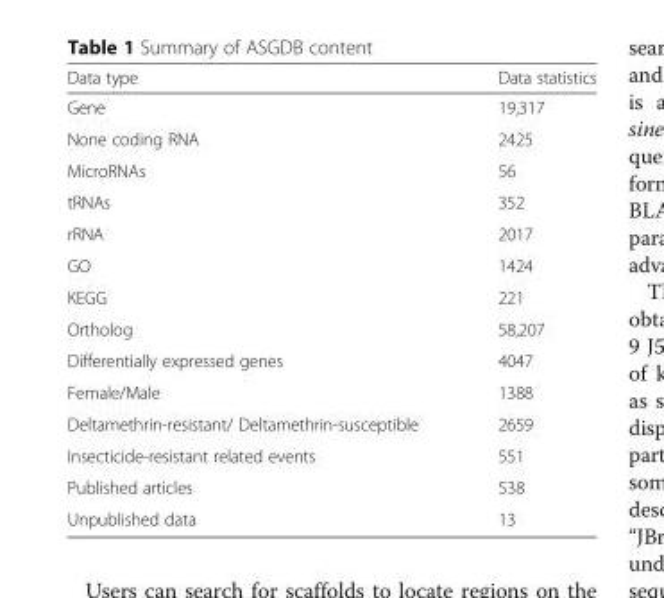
<table><thead><tr><td>Data type</td><td>Data statistics</td></tr></thead><tbody><tr><td>Gene</td><td>19,317</td></tr><tr><td>None coding RNA</td><td>2425</td></tr><tr><td>MicroRNAs</td><td>56</td></tr><tr><td>tRNAs</td><td>352</td></tr><tr><td>rRNA</td><td>2017</td></tr><tr><td>GO</td><td>1424</td></tr><tr><td>KEGG</td><td>221</td></tr><tr><td>Ortholog</td><td>58,207</td></tr><tr><td>Differentially expressed genes</td><td>4047</td></tr><tr><td>Female/Male</td><td>1388</td></tr><tr><td>Deltamethrin-resistant/ Deltamethrin-susceptible</td><td>2659</td></tr><tr><td>Insecticide-resistant related events</td><td>551</td></tr><tr><td>Published articles</td><td>538</td></tr><tr><td>Unpublished data</td><td>13</td></tr></tbody></table>